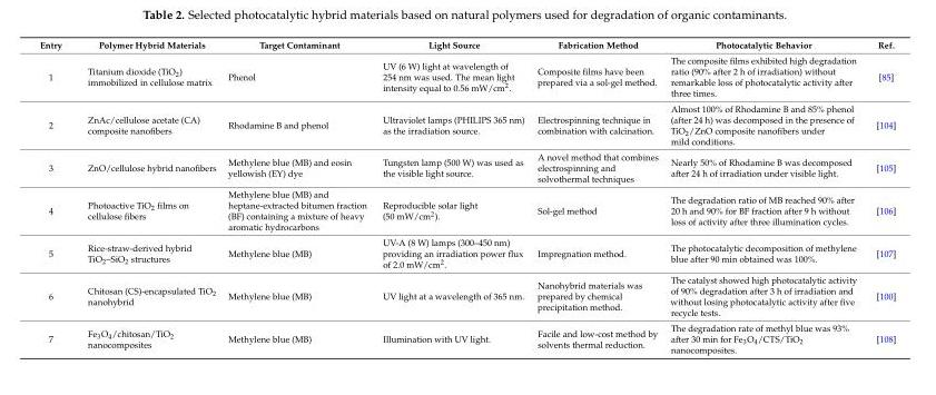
<table><thead><tr><td>Entry</td><td>Polymer Hybrid Materials</td><td>Target Contaminant</td><td>Light Source</td><td>Fabrication Method</td><td>Photocatalytic Behavior</td><td>Ref.</td></tr></thead><tbody><tr><td>1</td><td>Titanium dioxide (TiO<sub>2</sub>) immobilized in cellulose matrix</td><td>Phenol</td><td>UV (6 W) light at wavelength of 254 nm was used. The mean light intensity equal to 0.56 mW/cm<sup>2</sup>.</td><td>Composite films have been prepared via a sol-gel method.</td><td>The composite films exhibited high degradation ratio (90% after 2 h of irradiation) without remarkable loss of photocatalytic activity after three times.</td><td>[85]</td></tr><tr><td>2</td><td>ZnAc/cellulose acetate (CA) composite nanofibers</td><td>Rhodamine B and phenol</td><td>Ultraviolet lamps (PHILIPS 365 nm) as the irradiation source.</td><td>Electrospinning technique in combination with calcination.</td><td>Almost 100% of Rhodamine B and 85% phenol (after 24 h) was decomposed in the presence of TiO<sub>2</sub>/ZnO composite nanofibers under mild conditions.</td><td>[104]</td></tr><tr><td>3</td><td>ZnO/cellulose hybrid nanofibers</td><td>Methylene blue (MB) and eosin yellowish (EY) dye</td><td>Tungsten lamp (500 W) was used as the visible light source.</td><td>A novel method that combines electrospinning and solvothermal techniques</td><td>Nearly 50% of Rhodamine B was decomposed after 24 h of irradiation under visible light.</td><td>[105]</td></tr><tr><td>4</td><td>Photoactive TiO<sub>2</sub> films on cellulose fibers</td><td>Methylene blue (MB) and heptane-extracted bitumen fraction (BF) containing a mixture of heavy aromatic hydrocarbons</td><td>Reproducible solar light (50 mW/cm<sup>2</sup>).</td><td>Sol-gel method</td><td>The degradation ratio of MB reached 90% after 20 h and 90% for BF fraction after 9 h without loss of activity after three illumination cycles.</td><td>[106]</td></tr><tr><td>5</td><td>Rice-straw-derived hybrid TiO<sub>2</sub>–SiO<sub>2</sub> structures</td><td>Methylene blue (MB)</td><td>UV-A (8 W) lamps (300–450 nm) providing an irradiation power flux of 2.0 mW/cm<sup>2</sup>.</td><td>Impregnation method.</td><td>The photocatalytic decomposition of methylene blue after 90 min obtained was 100%.</td><td>[107]</td></tr><tr><td>6</td><td>Chitosan (CS)-encapsulated TiO<sub>2</sub> nanohybrid</td><td>Methylene blue (MB)</td><td>UV light at a wavelength of 365 nm.</td><td>Nanohybrid materials was prepared by chemical precipitation method.</td><td>The catalyst showed high photocatalytic activity of 90% degradation after 3 h of irradiation and without losing photocatalytic activity after five recycle tests.</td><td>[100]</td></tr><tr><td>7</td><td>Fe<sub>3</sub>O<sub>4</sub>/chitosan/TiO<sub>2</sub> nanocomposites</td><td>Methylene blue (MB)</td><td>Illumination with UV light.</td><td>Facile and low-cost method by solvents thermal reduction.</td><td>The degradation rate of methyl blue was 93% after 30 min for Fe<sub>3</sub>O<sub>4</sub>/CTS/TiO<sub>2</sub> nanocomposites.</td><td>[108]</td></tr></tbody></table>